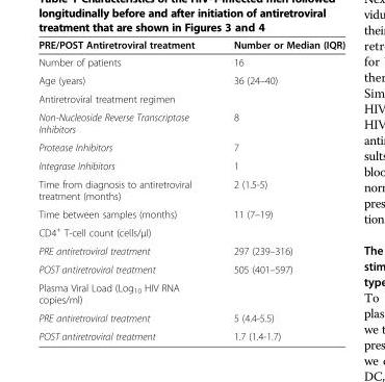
<table><thead><tr><td>PRE/POST Antiretroviral treatment</td><td>Number or Median (IQR)</td></tr></thead><tbody><tr><td>Number of patients</td><td>16</td></tr><tr><td>Age (years)</td><td>36 (24–40)</td></tr><tr><td colspan="2">Antiretroviral treatment regimen</td></tr><tr><td>Non-Nucleoside Reverse Transcriptase Inhibitors</td><td>8</td></tr><tr><td>Protease Inhibitors</td><td>7</td></tr><tr><td>Integrase Inhibitors</td><td>1</td></tr><tr><td>Time from diagnosis to antiretroviral treatment (months)</td><td>2 (1.5-5)</td></tr><tr><td>Time between samples (months)</td><td>11 (7–19)</td></tr><tr><td colspan="2">CD4<sup>+</sup> T-cell count (cells/μl)</td></tr><tr><td>PRE antiretroviral treatment</td><td>297 (239–316)</td></tr><tr><td>POST antiretroviral treatment</td><td>505 (401–597)</td></tr><tr><td colspan="2">Plasma Viral Load (Log<sub>10</sub> HIV RNA copies/ml)</td></tr><tr><td>PRE antiretroviral treatment</td><td>5 (4.4-5.5)</td></tr><tr><td>POST antiretroviral treatment</td><td>1.7 (1.4-1.7)</td></tr></tbody></table>